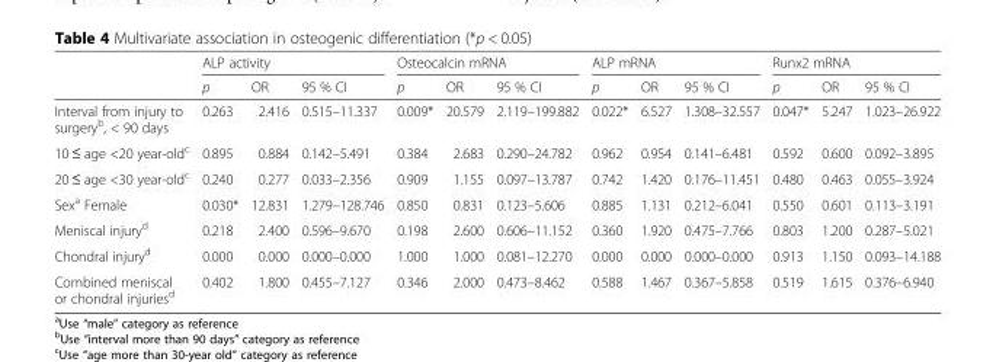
<table><thead><tr><td rowspan="2"></td><td colspan="3">ALP activity</td><td colspan="3">Osteocalcin mRNA</td><td colspan="3">ALP mRNA</td><td colspan="3">Runx2 mRNA</td></tr><tr><td>p</td><td>OR</td><td>95 % CI</td><td>p</td><td>OR</td><td>95 % CI</td><td>p</td><td>OR</td><td>95 % CI</td><td>p</td><td>OR</td><td>95 % CI</td></tr></thead><tbody><tr><td>Interval from injury to surgery<sup>b</sup>, &lt; 90 days</td><td>0.263</td><td>2.416</td><td>0.515–11.337</td><td>0.009*</td><td>20.579</td><td>2.119–199.882</td><td>0.022*</td><td>6.527</td><td>1.308–32.557</td><td>0.047*</td><td>5.247</td><td>1.023–26.922</td></tr><tr><td>10 ≤ age &lt;20 year-old<sup>c</sup></td><td>0.895</td><td>0.884</td><td>0.142–5.491</td><td>0.384</td><td>2.683</td><td>0.290–24.782</td><td>0.962</td><td>0.954</td><td>0.141–6.481</td><td>0.592</td><td>0.600</td><td>0.092–3.895</td></tr><tr><td>20 ≤ age &lt;30 year-old<sup>c</sup></td><td>0.240</td><td>0.277</td><td>0.033–2.356</td><td>0.909</td><td>1.155</td><td>0.097–13.787</td><td>0.742</td><td>1.420</td><td>0.176–11.451</td><td>0.480</td><td>0.463</td><td>0.055–3.924</td></tr><tr><td>Sex<sup>a</sup> Female</td><td>0.030*</td><td>12.831</td><td>1.279–128.746</td><td>0.850</td><td>0.831</td><td>0.123–5.606</td><td>0.885</td><td>1.131</td><td>0.212–6.041</td><td>0.550</td><td>0.601</td><td>0.113–3.191</td></tr><tr><td>Meniscal injury<sup>d</sup></td><td>0.218</td><td>2.400</td><td>0.596–9.670</td><td>0.198</td><td>2.600</td><td>0.606–11.152</td><td>0.360</td><td>1.920</td><td>0.475–7.766</td><td>0.803</td><td>1.200</td><td>0.287–5.021</td></tr><tr><td>Chondral injury<sup>d</sup></td><td>0.000</td><td>0.000</td><td>0.000–0.000</td><td>1.000</td><td>1.000</td><td>0.081–12.270</td><td>0.000</td><td>0.000</td><td>0.000–0.000</td><td>0.913</td><td>1.150</td><td>0.093–14.188</td></tr><tr><td>Combined meniscal or chondral injuries<sup>d</sup></td><td>0.402</td><td>1.800</td><td>0.455–7.127</td><td>0.346</td><td>2.000</td><td>0.473–8.462</td><td>0.588</td><td>1.467</td><td>0.367–5.858</td><td>0.519</td><td>1.615</td><td>0.376–6.940</td></tr></tbody></table>